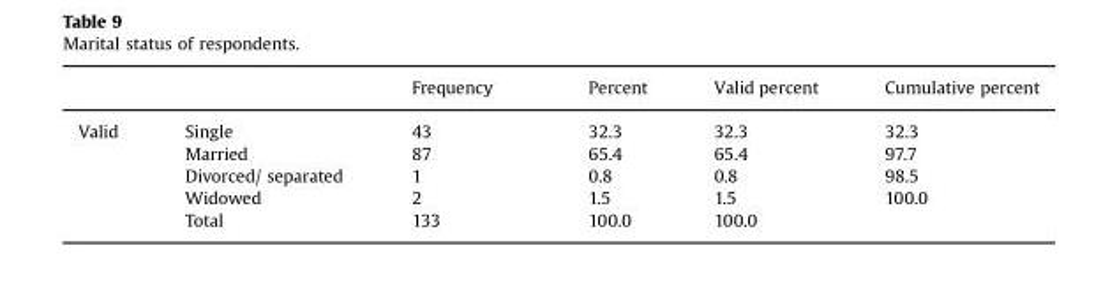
<table><thead><tr><td></td><td></td><td>Frequency</td><td>Percent</td><td>Valid percent</td><td>Cumulative percent</td></tr></thead><tbody><tr><td rowspan="5">Valid</td><td>Single</td><td>43</td><td>32.3</td><td>32.3</td><td>32.3</td></tr><tr><td>Married</td><td>87</td><td>65.4</td><td>65.4</td><td>97.7</td></tr><tr><td>Divorced/ separated</td><td>1</td><td>0.8</td><td>0.8</td><td>98.5</td></tr><tr><td>Widowed</td><td>2</td><td>1.5</td><td>1.5</td><td>100.0</td></tr><tr><td>Total</td><td>133</td><td>100.0</td><td>100.0</td><td></td></tr></tbody></table>